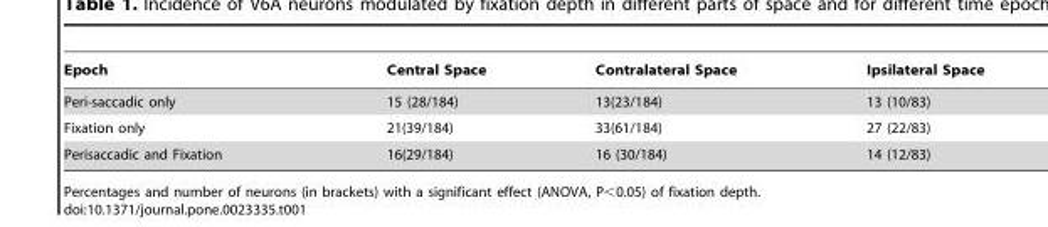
<table><thead><tr><td>Epoch</td><td>Central Space</td><td>Contralateral Space</td><td>Ipsilateral Space</td></tr></thead><tbody><tr><td>Peri-saccadic only</td><td>15 (28/184)</td><td>13(23/184)</td><td>13 (10/83)</td></tr><tr><td>Fixation only</td><td>21(39/184)</td><td>33(61/184)</td><td>27 (22/83)</td></tr><tr><td>Perisaccadic and Fixation</td><td>16(29/184)</td><td>16 (30/184)</td><td>14 (12/83)</td></tr></tbody></table>